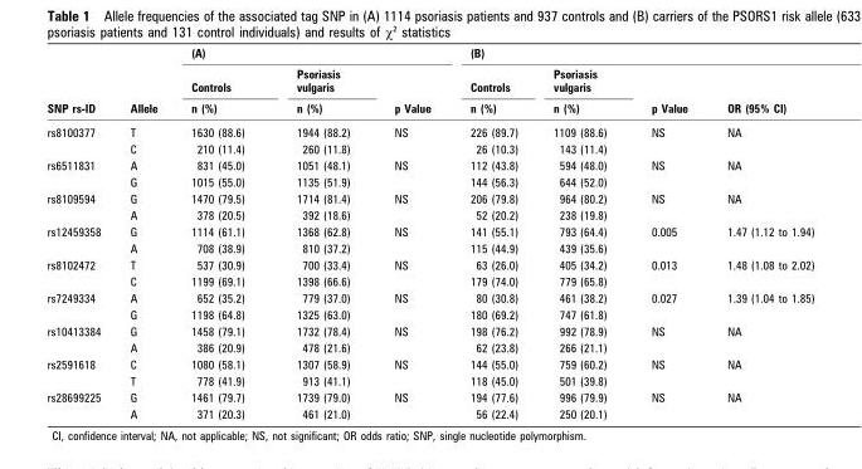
<table><thead><tr><td rowspan="3">SNP rs-ID</td><td rowspan="3">Allele</td><td colspan="3">(A)</td><td colspan="4">(B)</td></tr><tr><td rowspan="2">Controls n (%)</td><td rowspan="2">Psoriasis vulgaris n (%)</td><td rowspan="2">p Value</td><td rowspan="2">Controls n (%)</td><td rowspan="2">Psoriasis vulgaris n (%)</td><td rowspan="2">p Value</td><td rowspan="2">OR (95% CI)</td></tr><tr></tr></thead><tbody><tr><td rowspan="2">rs8100377</td><td>T</td><td>1630 (88.6)</td><td>1944 (88.2)</td><td>NS</td><td>226 (89.7)</td><td>1109 (88.6)</td><td>NS</td><td>NA</td></tr><tr><td>C</td><td>210 (11.4)</td><td>260 (11.8)</td><td></td><td>26 (10.3)</td><td>143 (11.4)</td><td></td><td></td></tr><tr><td rowspan="2">rs6511831</td><td>A</td><td>831 (45.0)</td><td>1051 (48.1)</td><td>NS</td><td>112 (43.8)</td><td>594 (48.0)</td><td>NS</td><td>NA</td></tr><tr><td>G</td><td>1015 (55.0)</td><td>1135 (51.9)</td><td></td><td>144 (56.3)</td><td>644 (52.0)</td><td></td><td></td></tr><tr><td rowspan="2">rs8109594</td><td>G</td><td>1470 (79.5)</td><td>1714 (81.4)</td><td>NS</td><td>206 (79.8)</td><td>964 (80.2)</td><td>NS</td><td>NA</td></tr><tr><td>A</td><td>378 (20.5)</td><td>392 (18.6)</td><td></td><td>52 (20.2)</td><td>238 (19.8)</td><td></td><td></td></tr><tr><td rowspan="2">rs12459358</td><td>G</td><td>1114 (61.1)</td><td>1368 (62.8)</td><td>NS</td><td>141 (55.1)</td><td>793 (64.4)</td><td>0.005</td><td>1.47 (1.12 to 1.94)</td></tr><tr><td>A</td><td>708 (38.9)</td><td>810 (37.2)</td><td></td><td>115 (44.9)</td><td>439 (35.6)</td><td></td><td></td></tr><tr><td rowspan="2">rs8102472</td><td>T</td><td>537 (30.9)</td><td>700 (33.4)</td><td>NS</td><td>63 (26.0)</td><td>405 (34.2)</td><td>0.013</td><td>1.48 (1.08 to 2.02)</td></tr><tr><td>C</td><td>1199 (69.1)</td><td>1398 (66.6)</td><td></td><td>179 (74.0)</td><td>779 (65.8)</td><td></td><td></td></tr><tr><td rowspan="2">rs7249334</td><td>A</td><td>652 (35.2)</td><td>779 (37.0)</td><td>NS</td><td>80 (30.8)</td><td>461 (38.2)</td><td>0.027</td><td>1.39 (1.04 to 1.85)</td></tr><tr><td>G</td><td>1198 (64.8)</td><td>1325 (63.0)</td><td></td><td>180 (69.2)</td><td>747 (61.8)</td><td></td><td></td></tr><tr><td rowspan="2">rs10413384</td><td>G</td><td>1458 (79.1)</td><td>1732 (78.4)</td><td>NS</td><td>198 (76.2)</td><td>992 (78.9)</td><td>NS</td><td>NA</td></tr><tr><td>A</td><td>386 (20.9)</td><td>478 (21.6)</td><td></td><td>62 (23.8)</td><td>266 (21.1)</td><td></td><td></td></tr><tr><td rowspan="2">rs2591618</td><td>C</td><td>1080 (58.1)</td><td>1307 (58.9)</td><td>NS</td><td>144 (55.0)</td><td>759 (60.2)</td><td>NS</td><td>NA</td></tr><tr><td>T</td><td>778 (41.9)</td><td>913 (41.1)</td><td></td><td>118 (45.0)</td><td>501 (39.8)</td><td></td><td></td></tr><tr><td rowspan="2">rs28699225</td><td>G</td><td>1461 (79.7)</td><td>1739 (79.0)</td><td>NS</td><td>194 (77.6)</td><td>996 (79.9)</td><td>NS</td><td>NA</td></tr><tr><td>A</td><td>371 (20.3)</td><td>461 (21.0)</td><td></td><td>56 (22.4)</td><td>250 (20.1)</td><td></td><td></td></tr></tbody></table>